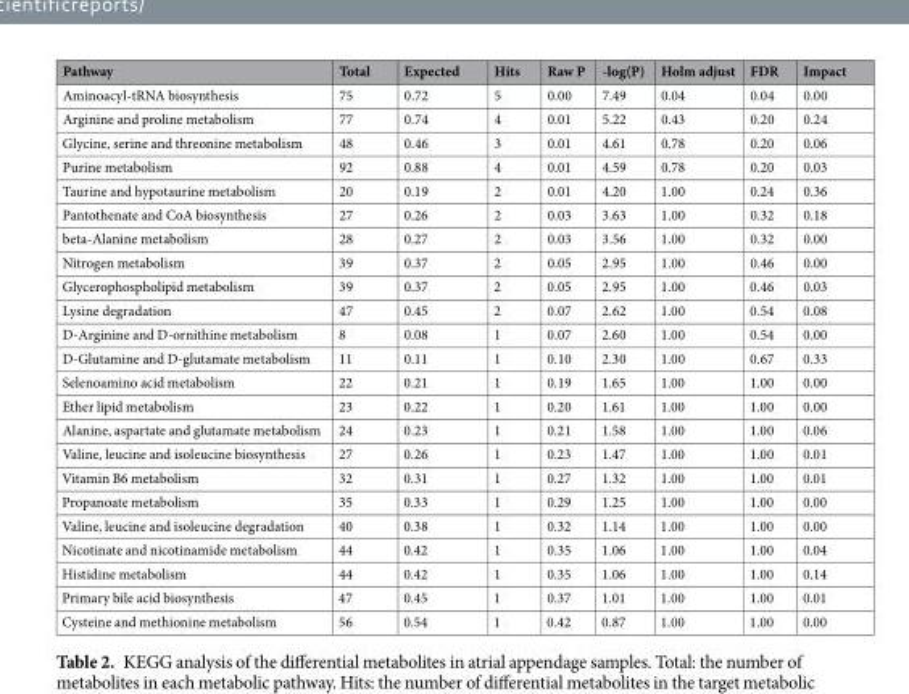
<table><thead><tr><td>Pathway</td><td>Total</td><td>Expected</td><td>Hits</td><td>Raw P</td><td>-log(P)</td><td>Holm adjust</td><td>FDR</td><td>Impact</td></tr></thead><tbody><tr><td>Aminoacyl-tRNA biosynthesis</td><td>75</td><td>0.72</td><td>5</td><td>0.00</td><td>7.49</td><td>0.04</td><td>0.04</td><td>0.00</td></tr><tr><td>Arginine and proline metabolism</td><td>77</td><td>0.74</td><td>4</td><td>0.01</td><td>5.22</td><td>0.43</td><td>0.20</td><td>0.24</td></tr><tr><td>Glycine, serine and threonine metabolism</td><td>48</td><td>0.46</td><td>3</td><td>0.01</td><td>4.61</td><td>0.78</td><td>0.20</td><td>0.06</td></tr><tr><td>Purine metabolism</td><td>92</td><td>0.88</td><td>4</td><td>0.01</td><td>4.59</td><td>0.78</td><td>0.20</td><td>0.03</td></tr><tr><td>Taurine and hypotaurine metabolism</td><td>20</td><td>0.19</td><td>2</td><td>0.01</td><td>4.20</td><td>1.00</td><td>0.24</td><td>0.36</td></tr><tr><td>Pantothenate and CoA biosynthesis</td><td>27</td><td>0.26</td><td>2</td><td>0.03</td><td>3.63</td><td>1.00</td><td>0.32</td><td>0.18</td></tr><tr><td>beta-Alanine metabolism</td><td>28</td><td>0.27</td><td>2</td><td>0.03</td><td>3.56</td><td>1.00</td><td>0.32</td><td>0.00</td></tr><tr><td>Nitrogen metabolism</td><td>39</td><td>0.37</td><td>2</td><td>0.05</td><td>2.95</td><td>1.00</td><td>0.46</td><td>0.00</td></tr><tr><td>Glycerophospholipid metabolism</td><td>39</td><td>0.37</td><td>2</td><td>0.05</td><td>2.95</td><td>1.00</td><td>0.46</td><td>0.03</td></tr><tr><td>Lysine degradation</td><td>47</td><td>0.45</td><td>2</td><td>0.07</td><td>2.62</td><td>1.00</td><td>0.54</td><td>0.08</td></tr><tr><td>D-Arginine and D-ornithine metabolism</td><td>8</td><td>0.08</td><td>1</td><td>0.07</td><td>2.60</td><td>1.00</td><td>0.54</td><td>0.00</td></tr><tr><td>D-Glutamine and D-glutamate metabolism</td><td>11</td><td>0.11</td><td>1</td><td>0.10</td><td>2.30</td><td>1.00</td><td>0.67</td><td>0.33</td></tr><tr><td>Selenoamino acid metabolism</td><td>22</td><td>0.21</td><td>1</td><td>0.19</td><td>1.65</td><td>1.00</td><td>1.00</td><td>0.00</td></tr><tr><td>Ether lipid metabolism</td><td>23</td><td>0.22</td><td>1</td><td>0.20</td><td>1.61</td><td>1.00</td><td>1.00</td><td>0.00</td></tr><tr><td>Alanine, aspartate and glutamate metabolism</td><td>24</td><td>0.23</td><td>1</td><td>0.21</td><td>1.58</td><td>1.00</td><td>1.00</td><td>0.06</td></tr><tr><td>Valine, leucine and isoleucine biosynthesis</td><td>27</td><td>0.26</td><td>1</td><td>0.23</td><td>1.47</td><td>1.00</td><td>1.00</td><td>0.01</td></tr><tr><td>Vitamin B6 metabolism</td><td>32</td><td>0.31</td><td>1</td><td>0.27</td><td>1.32</td><td>1.00</td><td>1.00</td><td>0.01</td></tr><tr><td>Propanoate metabolism</td><td>35</td><td>0.33</td><td>1</td><td>0.29</td><td>1.25</td><td>1.00</td><td>1.00</td><td>0.00</td></tr><tr><td>Valine, leucine and isoleucine degradation</td><td>40</td><td>0.38</td><td>1</td><td>0.32</td><td>1.14</td><td>1.00</td><td>1.00</td><td>0.00</td></tr><tr><td>Nicotinate and nicotinamide metabolism</td><td>44</td><td>0.42</td><td>1</td><td>0.35</td><td>1.06</td><td>1.00</td><td>1.00</td><td>0.04</td></tr><tr><td>Histidine metabolism</td><td>44</td><td>0.42</td><td>1</td><td>0.35</td><td>1.06</td><td>1.00</td><td>1.00</td><td>0.14</td></tr><tr><td>Primary bile acid biosynthesis</td><td>47</td><td>0.45</td><td>1</td><td>0.37</td><td>1.01</td><td>1.00</td><td>1.00</td><td>0.01</td></tr><tr><td>Cysteine and methionine metabolism</td><td>56</td><td>0.54</td><td>1</td><td>0.42</td><td>0.87</td><td>1.00</td><td>1.00</td><td>0.00</td></tr></tbody></table>